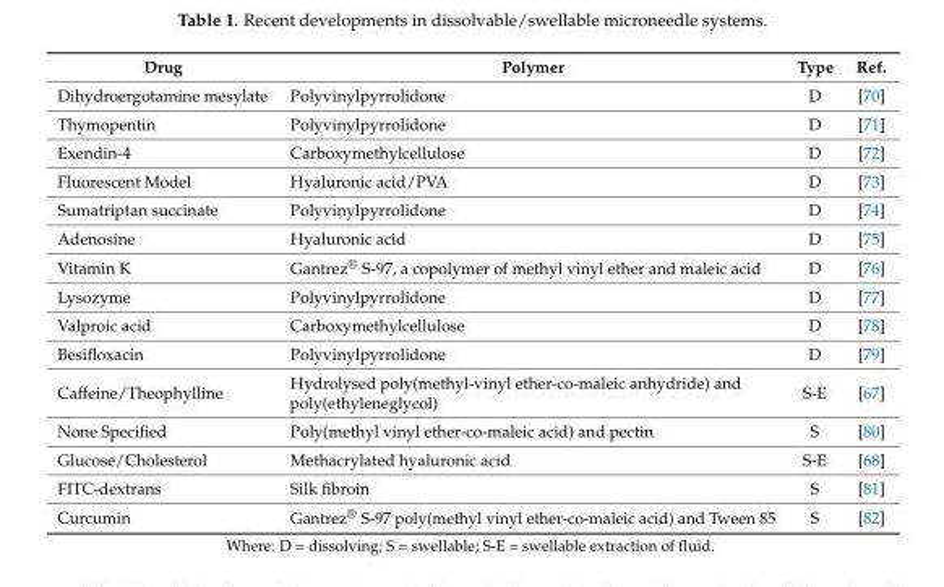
<table><thead><tr><td>Drug</td><td>Polymer</td><td>Type</td><td>Ref.</td></tr></thead><tbody><tr><td>Dihydroergotamine mesylate</td><td>Polyvinylpyrrolidone</td><td>D</td><td>[70]</td></tr><tr><td>Thymopentin</td><td>Polyvinylpyrrolidone</td><td>D</td><td>[71]</td></tr><tr><td>Exendin-4</td><td>Carboxymethylcellulose</td><td>D</td><td>[72]</td></tr><tr><td>Fluorescent Model</td><td>Hyaluronic acid/PVA</td><td>D</td><td>[73]</td></tr><tr><td>Sumatriptan succinate</td><td>Polyvinylpyrrolidone</td><td>D</td><td>[74]</td></tr><tr><td>Adenosine</td><td>Hyaluronic acid</td><td>D</td><td>[75]</td></tr><tr><td>Vitamin K</td><td>Gantrez<sup>®</sup> S-97, a copolymer of methyl vinyl ether and maleic acid</td><td>D</td><td>[76]</td></tr><tr><td>Lysozyme</td><td>Polyvinylpyrrolidone</td><td>D</td><td>[77]</td></tr><tr><td>Valproic acid</td><td>Carboxymethylcellulose</td><td>D</td><td>[78]</td></tr><tr><td>Besifloxacin</td><td>Polyvinylpyrrolidone</td><td>D</td><td>[79]</td></tr><tr><td>Caffeine/Theophylline</td><td>Hydrolysed poly(methyl-vinyl ether-co-maleic anhydride) and poly(ethyleneglycol)</td><td>S-E</td><td>[67]</td></tr><tr><td>None Specified</td><td>Poly(methyl vinyl ether-co-maleic acid) and pectin</td><td>S</td><td>[80]</td></tr><tr><td>Glucose/Cholesterol</td><td>Methacrylated hyaluronic acid</td><td>S-E</td><td>[68]</td></tr><tr><td>FITC-dextrans</td><td>Silk fibroin</td><td>S</td><td>[81]</td></tr><tr><td>Curcumin</td><td>Gantrez<sup>®</sup> S-97 poly(methyl vinyl ether-co-maleic acid) and Tween 85</td><td>S</td><td>[82]</td></tr></tbody></table>